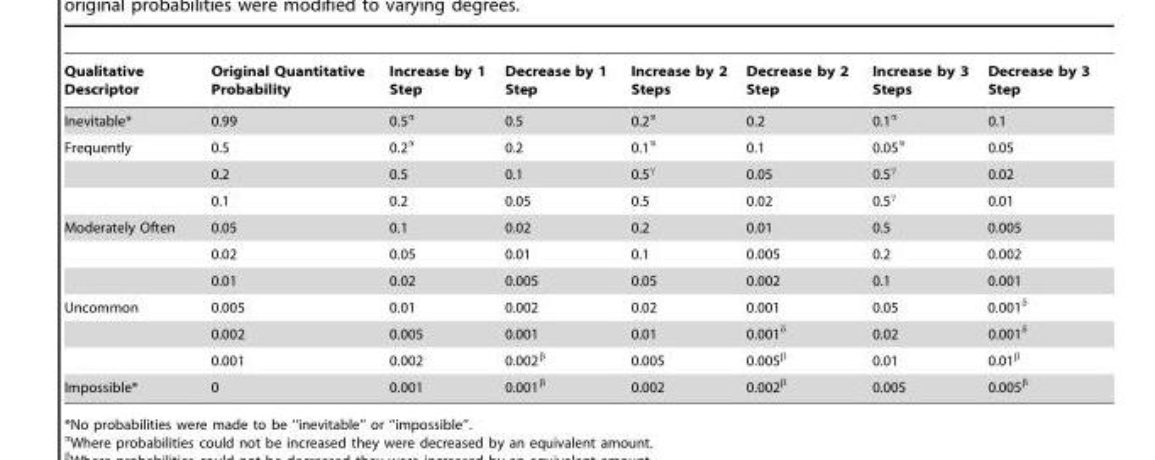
<table><thead><tr><td>Qualitative Descriptor</td><td>Original Quantitative Probability</td><td>Increase by 1 Step</td><td>Decrease by 1 Step</td><td>Increase by 2 Steps</td><td>Decrease by 2 Step</td><td>Increase by 3 Steps</td><td>Decrease by 3 Step</td></tr></thead><tbody><tr><td>Inevitable*</td><td>0.99</td><td>0.5α</td><td>0.5</td><td>0.2α</td><td>0.2</td><td>0.1α</td><td>0.1</td></tr><tr><td rowspan="3">Frequently</td><td>0.5</td><td>0.2α</td><td>0.2</td><td>0.1α</td><td>0.1</td><td>0.05α</td><td>0.05</td></tr><tr><td>0.2</td><td>0.5</td><td>0.1</td><td>0.5γ</td><td>0.05</td><td>0.5γ</td><td>0.02</td></tr><tr><td>0.1</td><td>0.2</td><td>0.05</td><td>0.5</td><td>0.02</td><td>0.5γ</td><td>0.01</td></tr><tr><td rowspan="3">Moderately Often</td><td>0.05</td><td>0.1</td><td>0.02</td><td>0.2</td><td>0.01</td><td>0.5</td><td>0.005</td></tr><tr><td>0.02</td><td>0.05</td><td>0.01</td><td>0.1</td><td>0.005</td><td>0.2</td><td>0.002</td></tr><tr><td>0.01</td><td>0.02</td><td>0.005</td><td>0.05</td><td>0.002</td><td>0.1</td><td>0.001</td></tr><tr><td rowspan="3">Uncommon</td><td>0.005</td><td>0.01</td><td>0.002</td><td>0.02</td><td>0.001</td><td>0.05</td><td>0.001δ</td></tr><tr><td>0.002</td><td>0.005</td><td>0.001</td><td>0.01</td><td>0.001δ</td><td>0.02</td><td>0.001δ</td></tr><tr><td>0.001</td><td>0.002</td><td>0.002β</td><td>0.005</td><td>0.005β</td><td>0.01</td><td>0.01β</td></tr><tr><td>Impossible*</td><td>0</td><td>0.001</td><td>0.001β</td><td>0.002</td><td>0.002β</td><td>0.005</td><td>0.005β</td></tr></tbody></table>